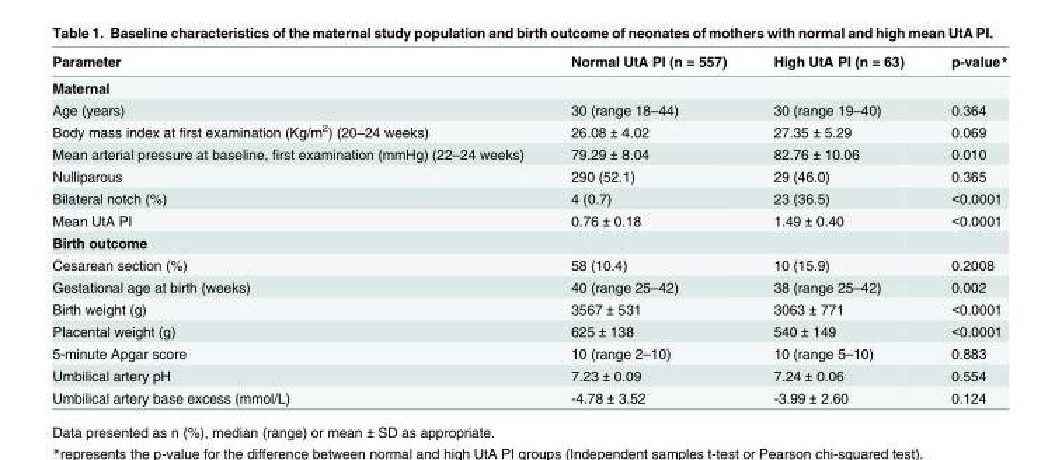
<table><thead><tr><td>Parameter</td><td>Normal UtA PI (n = 557)</td><td>High UtA PI (n = 63)</td><td>p-value*</td></tr></thead><tbody><tr><td colspan="4">Maternal</td></tr><tr><td>Age (years)</td><td>30 (range 18–44)</td><td>30 (range 19–40)</td><td>0.364</td></tr><tr><td>Body mass index at first examination (Kg/m<sup>2</sup>) (20–24 weeks)</td><td>26.08 ± 4.02</td><td>27.35 ± 5.29</td><td>0.069</td></tr><tr><td>Mean arterial pressure at baseline, first examination (mmHg) (22–24 weeks)</td><td>79.29 ± 8.04</td><td>82.76 ± 10.06</td><td>0.010</td></tr><tr><td>Nulliparous</td><td>290 (52.1)</td><td>29 (46.0)</td><td>0.365</td></tr><tr><td>Bilateral notch (%)</td><td>4 (0.7)</td><td>23 (36.5)</td><td>&lt;0.0001</td></tr><tr><td>Mean UtA PI</td><td>0.76 ± 0.18</td><td>1.49 ± 0.40</td><td>&lt;0.0001</td></tr><tr><td colspan="4">Birth outcome</td></tr><tr><td>Cesarean section (%)</td><td>58 (10.4)</td><td>10 (15.9)</td><td>0.2008</td></tr><tr><td>Gestational age at birth (weeks)</td><td>40 (range 25–42)</td><td>38 (range 25–42)</td><td>0.002</td></tr><tr><td>Birth weight (g)</td><td>3567 ± 531</td><td>3063 ± 771</td><td>&lt;0.0001</td></tr><tr><td>Placental weight (g)</td><td>625 ± 138</td><td>540 ± 149</td><td>&lt;0.0001</td></tr><tr><td>5-minute Apgar score</td><td>10 (range 2–10)</td><td>10 (range 5–10)</td><td>0.883</td></tr><tr><td>Umbilical artery pH</td><td>7.23 ± 0.09</td><td>7.24 ± 0.06</td><td>0.554</td></tr><tr><td>Umbilical artery base excess (mmol/L)</td><td>-4.78 ± 3.52</td><td>-3.99 ± 2.60</td><td>0.124</td></tr></tbody></table>